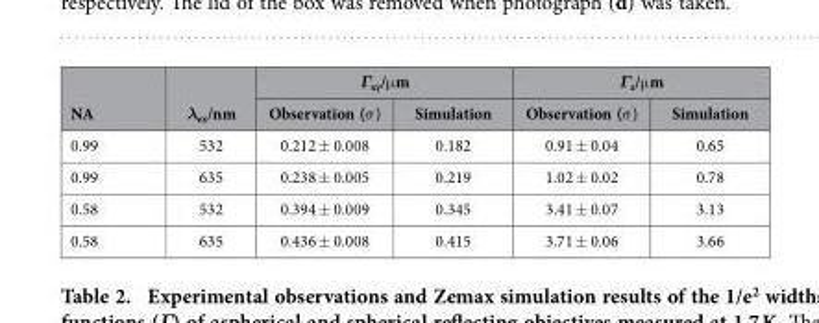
<table><thead><tr><td rowspan="2">NA</td><td rowspan="2">λ<sub>ex</sub>/nm</td><td colspan="2">Γ<sub>xy</sub>/μ m</td><td colspan="2">Γ<sub>z</sub>/μ m</td></tr><tr><td>Observation (σ )</td><td>Simulation</td><td>Observation (σ )</td><td>Simulation</td></tr></thead><tbody><tr><td>0.99</td><td>532</td><td>0.212 ± 0.008</td><td>0.182</td><td>0.91 ± 0.04</td><td>0.65</td></tr><tr><td>0.99</td><td>635</td><td>0.238 ± 0.005</td><td>0.219</td><td>1.02 ± 0.02</td><td>0.78</td></tr><tr><td>0.58</td><td>532</td><td>0.394 ± 0.009</td><td>0.345</td><td>3.41 ± 0.07</td><td>3.13</td></tr><tr><td>0.58</td><td>635</td><td>0.436 ± 0.008</td><td>0.415</td><td>3.71 ± 0.06</td><td>3.66</td></tr></tbody></table>